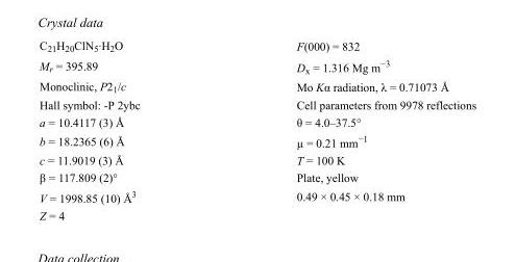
<table><tbody><tr><td>C<sub>21</sub>H<sub>20</sub>ClN<sub>5</sub>·H<sub>2</sub>O</td><td>F(000) = 832</td></tr><tr><td>M<sub>r</sub> = 395.89</td><td>D<sub>x</sub> = 1.316 Mg m<sup>−3</sup></td></tr><tr><td>Monoclinic, P2<sub>1</sub>/c</td><td>Mo Kα radiation, λ = 0.71073 Å</td></tr><tr><td>Hall symbol: -P 2ybc</td><td>Cell parameters from 9978 reflections</td></tr><tr><td>a = 10.4117 (3) Å</td><td>θ = 4.0–37.5°</td></tr><tr><td>b = 18.2365 (6) Å</td><td>µ = 0.21 mm<sup>−1</sup></td></tr><tr><td>c = 11.9019 (3) Å</td><td>T = 100 K</td></tr><tr><td>β = 117.809 (2)°</td><td>Plate, yellow</td></tr><tr><td>V = 1998.85 (10) Å<sup>3</sup></td><td>0.49 × 0.45 × 0.18 mm</td></tr><tr><td>Z = 4</td><td></td></tr></tbody></table>